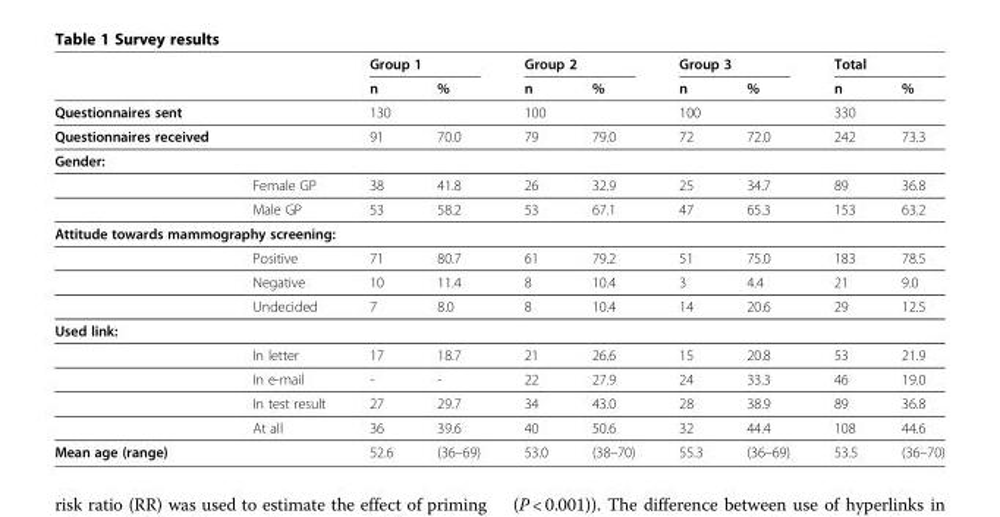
<table><thead><tr><td rowspan="2"></td><td rowspan="2"></td><td colspan="2">Group 1</td><td colspan="2">Group 2</td><td colspan="2">Group 3</td><td colspan="2">Total</td></tr><tr><td>n</td><td>%</td><td>n</td><td>%</td><td>n</td><td>%</td><td>n</td><td>%</td></tr></thead><tbody><tr><td>Questionnaires sent</td><td></td><td>130</td><td></td><td>100</td><td></td><td>100</td><td></td><td>330</td><td></td></tr><tr><td>Questionnaires received</td><td></td><td>91</td><td>70.0</td><td>79</td><td>79.0</td><td>72</td><td>72.0</td><td>242</td><td>73.3</td></tr><tr><td colspan="10">Gender:</td></tr><tr><td></td><td>Female GP</td><td>38</td><td>41.8</td><td>26</td><td>32.9</td><td>25</td><td>34.7</td><td>89</td><td>36.8</td></tr><tr><td></td><td>Male GP</td><td>53</td><td>58.2</td><td>53</td><td>67.1</td><td>47</td><td>65.3</td><td>153</td><td>63.2</td></tr><tr><td colspan="10">Attitude towards mammography screening:</td></tr><tr><td></td><td>Positive</td><td>71</td><td>80.7</td><td>61</td><td>79.2</td><td>51</td><td>75.0</td><td>183</td><td>78.5</td></tr><tr><td></td><td>Negative</td><td>10</td><td>11.4</td><td>8</td><td>10.4</td><td>3</td><td>4.4</td><td>21</td><td>9.0</td></tr><tr><td></td><td>Undecided</td><td>7</td><td>8.0</td><td>8</td><td>10.4</td><td>14</td><td>20.6</td><td>29</td><td>12.5</td></tr><tr><td colspan="10">Used link:</td></tr><tr><td></td><td>In letter</td><td>17</td><td>18.7</td><td>21</td><td>26.6</td><td>15</td><td>20.8</td><td>53</td><td>21.9</td></tr><tr><td></td><td>In e-mail</td><td>-</td><td>-</td><td>22</td><td>27.9</td><td>24</td><td>33.3</td><td>46</td><td>19.0</td></tr><tr><td></td><td>In test result</td><td>27</td><td>29.7</td><td>34</td><td>43.0</td><td>28</td><td>38.9</td><td>89</td><td>36.8</td></tr><tr><td></td><td>At all</td><td>36</td><td>39.6</td><td>40</td><td>50.6</td><td>32</td><td>44.4</td><td>108</td><td>44.6</td></tr><tr><td>Mean age (range)</td><td></td><td>52.6</td><td>(36–69)</td><td>53.0</td><td>(38–70)</td><td>55.3</td><td>(36–69)</td><td>53.5</td><td>(36–70)</td></tr></tbody></table>